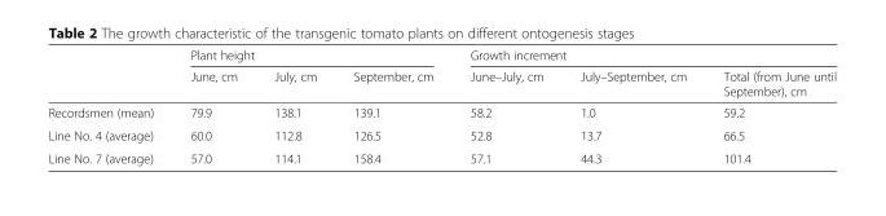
<table><thead><tr><td rowspan="2"></td><td colspan="3">Plant height</td><td colspan="3">Growth increment</td></tr><tr><td>June, cm</td><td>July, cm</td><td>September, cm</td><td>June–July, cm</td><td>July–September, cm</td><td>Total (from June until September), cm</td></tr></thead><tbody><tr><td>Recordsmen (mean)</td><td>79.9</td><td>138.1</td><td>139.1</td><td>58.2</td><td>1.0</td><td>59.2</td></tr><tr><td>Line No. 4 (average)</td><td>60.0</td><td>112.8</td><td>126.5</td><td>52.8</td><td>13.7</td><td>66.5</td></tr><tr><td>Line No. 7 (average)</td><td>57.0</td><td>114.1</td><td>158.4</td><td>57.1</td><td>44.3</td><td>101.4</td></tr></tbody></table>